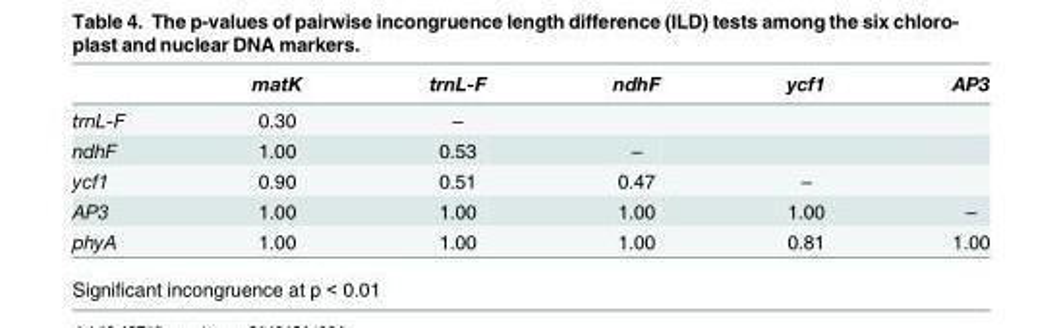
<table><thead><tr><td></td><td>matK</td><td>trnL-F</td><td>ndhF</td><td>ycf1</td><td>AP3</td></tr></thead><tbody><tr><td>trnL-F</td><td>0.30</td><td>–</td><td></td><td></td><td></td></tr><tr><td>ndhF</td><td>1.00</td><td>0.53</td><td>–</td><td></td><td></td></tr><tr><td>ycf1</td><td>0.90</td><td>0.51</td><td>0.47</td><td>–</td><td></td></tr><tr><td>AP3</td><td>1.00</td><td>1.00</td><td>1.00</td><td>1.00</td><td>–</td></tr><tr><td>phyA</td><td>1.00</td><td>1.00</td><td>1.00</td><td>0.81</td><td>1.00</td></tr></tbody></table>